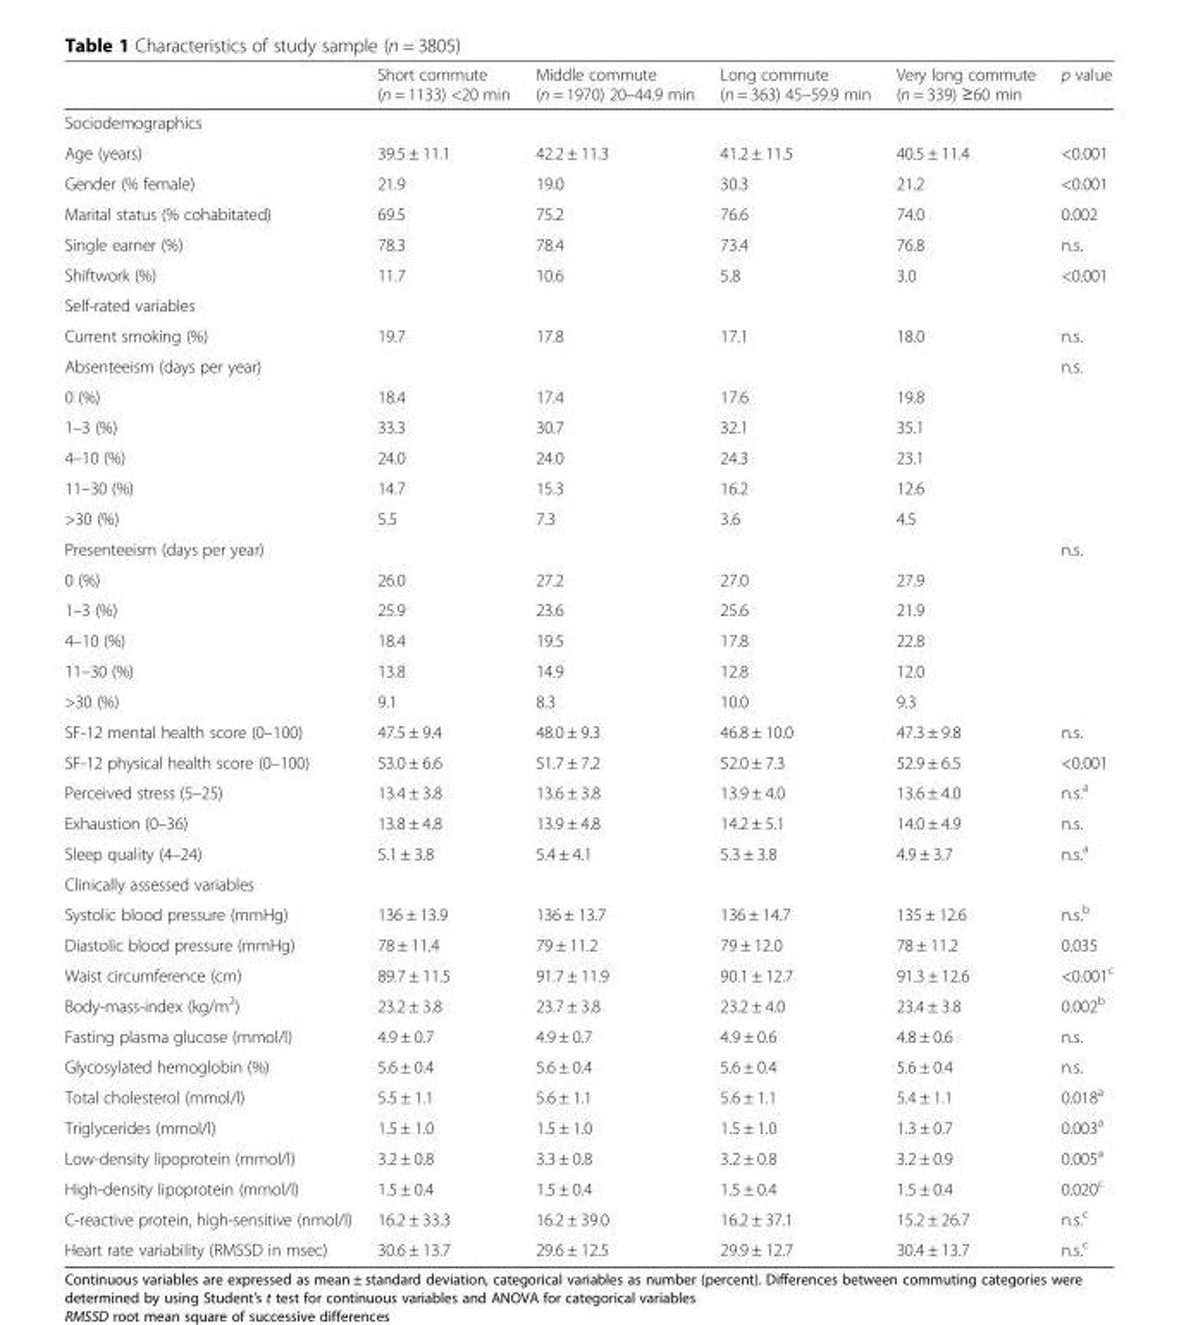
<table><thead><tr><td></td><td>Short commute (n = 1133) &lt;20 min</td><td>Middle commute (n = 1970) 20–44.9 min</td><td>Long commute (n = 363) 45–59.9 min</td><td>Very long commute (n = 339) ≥60 min</td><td>p value</td></tr></thead><tbody><tr><td colspan="6">Sociodemographics</td></tr><tr><td>Age (years)</td><td>39.5 ± 11.1</td><td>42.2 ± 11.3</td><td>41.2 ± 11.5</td><td>40.5 ± 11.4</td><td>&lt;0.001</td></tr><tr><td>Gender (% female)</td><td>21.9</td><td>19.0</td><td>30.3</td><td>21.2</td><td>&lt;0.001</td></tr><tr><td>Marital status (% cohabitated)</td><td>69.5</td><td>75.2</td><td>76.6</td><td>74.0</td><td>0.002</td></tr><tr><td>Single earner (%)</td><td>78.3</td><td>78.4</td><td>73.4</td><td>76.8</td><td>n.s.</td></tr><tr><td>Shiftwork (%)</td><td>11.7</td><td>10.6</td><td>5.8</td><td>3.0</td><td>&lt;0.001</td></tr><tr><td colspan="6">Self-rated variables</td></tr><tr><td>Current smoking (%)</td><td>19.7</td><td>17.8</td><td>17.1</td><td>18.0</td><td>n.s.</td></tr><tr><td>Absenteeism (days per year)</td><td></td><td></td><td></td><td></td><td>n.s.</td></tr><tr><td>0 (%)</td><td>18.4</td><td>17.4</td><td>17.6</td><td>19.8</td><td></td></tr><tr><td>1–3 (%)</td><td>33.3</td><td>30.7</td><td>32.1</td><td>35.1</td><td></td></tr><tr><td>4–10 (%)</td><td>24.0</td><td>24.0</td><td>24.3</td><td>23.1</td><td></td></tr><tr><td>11–30 (%)</td><td>14.7</td><td>15.3</td><td>16.2</td><td>12.6</td><td></td></tr><tr><td>&gt;30 (%)</td><td>5.5</td><td>7.3</td><td>3.6</td><td>4.5</td><td></td></tr><tr><td>Presenteeism (days per year)</td><td></td><td></td><td></td><td></td><td>n.s.</td></tr><tr><td>0 (%)</td><td>26.0</td><td>27.2</td><td>27.0</td><td>27.9</td><td></td></tr><tr><td>1–3 (%)</td><td>25.9</td><td>23.6</td><td>25.6</td><td>21.9</td><td></td></tr><tr><td>4–10 (%)</td><td>18.4</td><td>19.5</td><td>17.8</td><td>22.8</td><td></td></tr><tr><td>11–30 (%)</td><td>13.8</td><td>14.9</td><td>12.8</td><td>12.0</td><td></td></tr><tr><td>&gt;30 (%)</td><td>9.1</td><td>8.3</td><td>10.0</td><td>9.3</td><td></td></tr><tr><td>SF-12 mental health score (0–100)</td><td>47.5 ± 9.4</td><td>48.0 ± 9.3</td><td>46.8 ± 10.0</td><td>47.3 ± 9.8</td><td>n.s.</td></tr><tr><td>SF-12 physical health score (0–100)</td><td>53.0 ± 6.6</td><td>51.7 ± 7.2</td><td>52.0 ± 7.3</td><td>52.9 ± 6.5</td><td>&lt;0.001</td></tr><tr><td>Perceived stress (5–25)</td><td>13.4 ± 3.8</td><td>13.6 ± 3.8</td><td>13.9 ± 4.0</td><td>13.6 ± 4.0</td><td>n.s.<sup>a</sup></td></tr><tr><td>Exhaustion (0–36)</td><td>13.8 ± 4.8</td><td>13.9 ± 4.8</td><td>14.2 ± 5.1</td><td>14.0 ± 4.9</td><td>n.s.</td></tr><tr><td>Sleep quality (4–24)</td><td>5.1 ± 3.8</td><td>5.4 ± 4.1</td><td>5.3 ± 3.8</td><td>4.9 ± 3.7</td><td>n.s.<sup>a</sup></td></tr><tr><td colspan="6">Clinically assessed variables</td></tr><tr><td>Systolic blood pressure (mmHg)</td><td>136 ± 13.9</td><td>136 ± 13.7</td><td>136 ± 14.7</td><td>135 ± 12.6</td><td>n.s.<sup>b</sup></td></tr><tr><td>Diastolic blood pressure (mmHg)</td><td>78 ± 11.4</td><td>79 ± 11.2</td><td>79 ± 12.0</td><td>78 ± 11.2</td><td>0.035</td></tr><tr><td>Waist circumference (cm)</td><td>89.7 ± 11.5</td><td>91.7 ± 11.9</td><td>90.1 ± 12.7</td><td>91.3 ± 12.6</td><td>&lt;0.001<sup>c</sup></td></tr><tr><td>Body-mass-index (kg/m<sup>2</sup>)</td><td>23.2 ± 3.8</td><td>23.7 ± 3.8</td><td>23.2 ± 4.0</td><td>23.4 ± 3.8</td><td>0.002<sup>b</sup></td></tr><tr><td>Fasting plasma glucose (mmol/l)</td><td>4.9 ± 0.7</td><td>4.9 ± 0.7</td><td>4.9 ± 0.6</td><td>4.8 ± 0.6</td><td>n.s.</td></tr><tr><td>Glycosylated hemoglobin (%)</td><td>5.6 ± 0.4</td><td>5.6 ± 0.4</td><td>5.6 ± 0.4</td><td>5.6 ± 0.4</td><td>n.s.</td></tr><tr><td>Total cholesterol (mmol/l)</td><td>5.5 ± 1.1</td><td>5.6 ± 1.1</td><td>5.6 ± 1.1</td><td>5.4 ± 1.1</td><td>0.018<sup>a</sup></td></tr><tr><td>Triglycerides (mmol/l)</td><td>1.5 ± 1.0</td><td>1.5 ± 1.0</td><td>1.5 ± 1.0</td><td>1.3 ± 0.7</td><td>0.003<sup>a</sup></td></tr><tr><td>Low-density lipoprotein (mmol/l)</td><td>3.2 ± 0.8</td><td>3.3 ± 0.8</td><td>3.2 ± 0.8</td><td>3.2 ± 0.9</td><td>0.005<sup>a</sup></td></tr><tr><td>High-density lipoprotein (mmol/l)</td><td>1.5 ± 0.4</td><td>1.5 ± 0.4</td><td>1.5 ± 0.4</td><td>1.5 ± 0.4</td><td>0.020<sup>c</sup></td></tr><tr><td>C-reactive protein, high-sensitive (nmol/l)</td><td>16.2 ± 33.3</td><td>16.2 ± 39.0</td><td>16.2 ± 37.1</td><td>15.2 ± 26.7</td><td>n.s.<sup>c</sup></td></tr><tr><td>Heart rate variability (RMSSD in msec)</td><td>30.6 ± 13.7</td><td>29.6 ± 12.5</td><td>29.9 ± 12.7</td><td>30.4 ± 13.7</td><td>n.s.<sup>c</sup></td></tr></tbody></table>